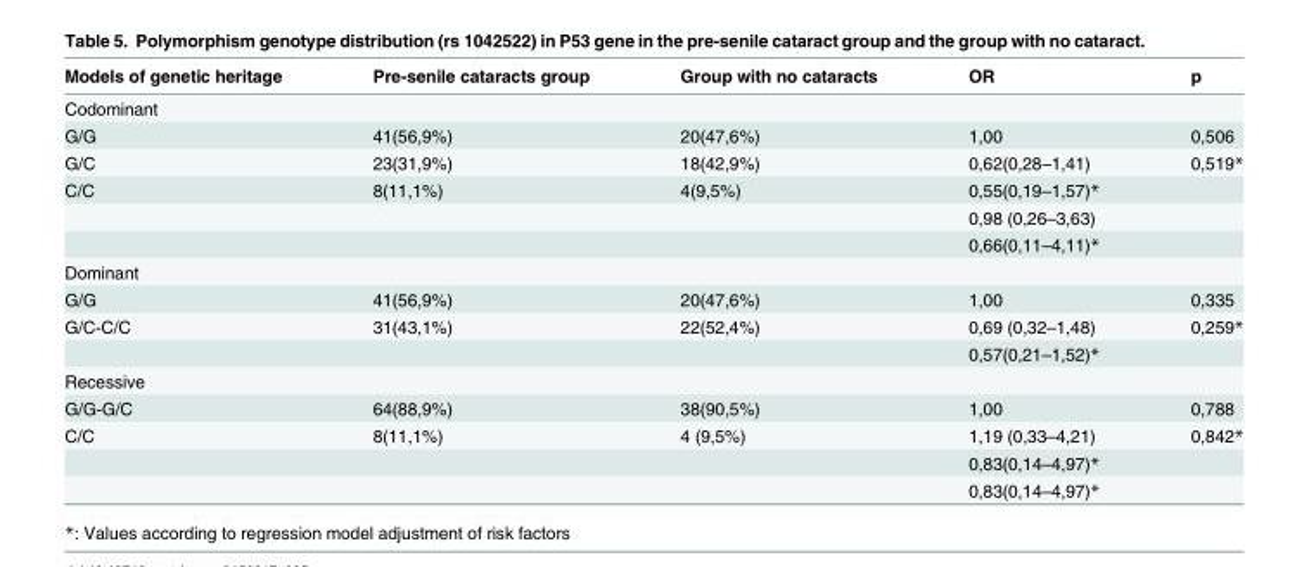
<table><thead><tr><td>Models of genetic heritage</td><td>Pre-senile cataracts group</td><td>Group with no cataracts</td><td>OR</td><td>p</td></tr></thead><tbody><tr><td colspan="5">Codominant</td></tr><tr><td>G/G</td><td>41(56,9%)</td><td>20(47,6%)</td><td>1,00</td><td>0,506</td></tr><tr><td>G/C</td><td>23(31,9%)</td><td>18(42,9%)</td><td>0,62(0,28–1,41)</td><td>0,519*</td></tr><tr><td rowspan="3">C/C</td><td>8(11,1%)</td><td>4(9,5%)</td><td>0,55(0,19–1,57)*</td><td></td></tr><tr><td></td><td></td><td>0,98 (0,26–3,63)</td><td></td></tr><tr><td></td><td></td><td>0,66(0,11–4,11)*</td><td></td></tr><tr><td colspan="5">Dominant</td></tr><tr><td>G/G</td><td>41(56,9%)</td><td>20(47,6%)</td><td>1,00</td><td>0,335</td></tr><tr><td rowspan="2">G/C-C/C</td><td>31(43,1%)</td><td>22(52,4%)</td><td>0,69 (0,32–1,48)</td><td>0,259*</td></tr><tr><td></td><td></td><td>0,57(0,21–1,52)*</td><td></td></tr><tr><td colspan="5">Recessive</td></tr><tr><td>G/G-G/C</td><td>64(88,9%)</td><td>38(90,5%)</td><td>1,00</td><td>0,788</td></tr><tr><td rowspan="3">C/C</td><td>8(11,1%)</td><td>4 (9,5%)</td><td>1,19 (0,33–4,21)</td><td>0,842*</td></tr><tr><td></td><td></td><td>0,83(0,14–4,97)*</td><td></td></tr><tr><td></td><td></td><td>0,83(0,14–4,97)*</td><td></td></tr></tbody></table>